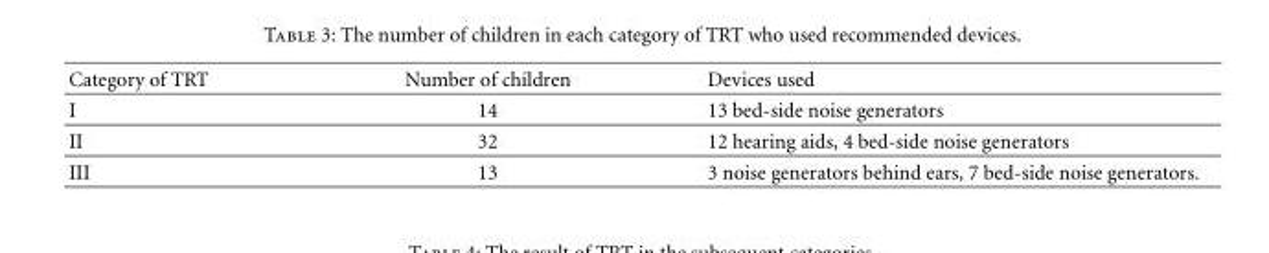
<table><thead><tr><td>Category of TRT</td><td>Number of children</td><td>Devices used</td></tr></thead><tbody><tr><td>I</td><td>14</td><td>13 bed-side noise generators</td></tr><tr><td>II</td><td>32</td><td>12 hearing aids, 4 bed-side noise generators</td></tr><tr><td>III</td><td>13</td><td>3 noise generators behind ears, 7 bed-side noise generators.</td></tr></tbody></table>